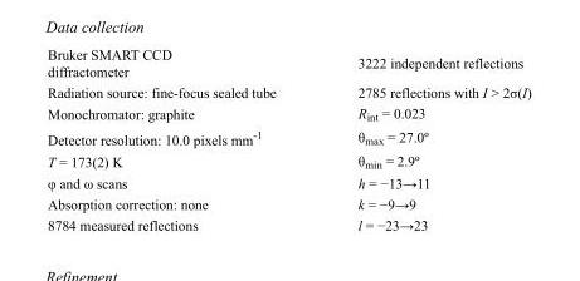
<table><tbody><tr><td>Bruker SMART CCD diffractometer</td><td>3222 independent reflections</td></tr><tr><td>Radiation source: fine-focus sealed tube</td><td>2785 reflections with I &gt; 2σ(I)</td></tr><tr><td>Monochromator: graphite</td><td>R<sub>int</sub> = 0.023</td></tr><tr><td>Detector resolution: 10.0 pixels mm<sup>-1</sup></td><td>θ<sub>max</sub> = 27.0º</td></tr><tr><td>T = 173(2) K</td><td>θ<sub>min</sub> = 2.9º</td></tr><tr><td>φ and ω scans</td><td>h = −13→11</td></tr><tr><td>Absorption correction: none</td><td>k = −9→9</td></tr><tr><td>8784 measured reflections</td><td>l = −23→23</td></tr></tbody></table>